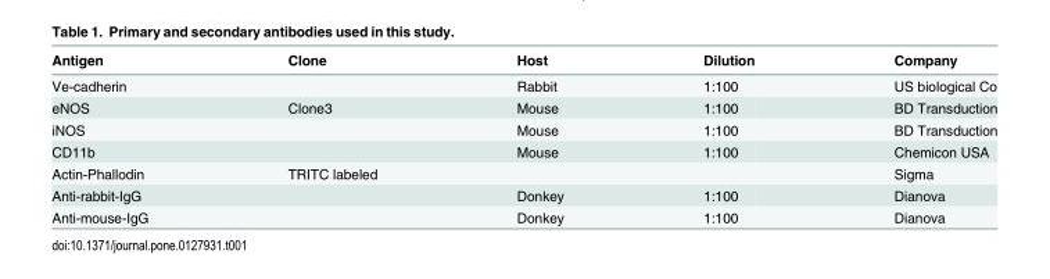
<table><thead><tr><td>Antigen</td><td>Clone</td><td>Host</td><td>Dilution</td><td>Company</td></tr></thead><tbody><tr><td>Ve-cadherin</td><td></td><td>Rabbit</td><td>1:100</td><td>US biological Co</td></tr><tr><td>eNOS</td><td>Clone3</td><td>Mouse</td><td>1:100</td><td>BD Transduction</td></tr><tr><td>iNOS</td><td></td><td>Mouse</td><td>1:100</td><td>BD Transduction</td></tr><tr><td>CD11b</td><td></td><td>Mouse</td><td>1:100</td><td>Chemicon USA</td></tr><tr><td>Actin-Phallodin</td><td>TRITC labeled</td><td></td><td></td><td>Sigma</td></tr><tr><td>Anti-rabbit-IgG</td><td></td><td>Donkey</td><td>1:100</td><td>Dianova</td></tr><tr><td>Anti-mouse-IgG</td><td></td><td>Donkey</td><td>1:100</td><td>Dianova</td></tr></tbody></table>